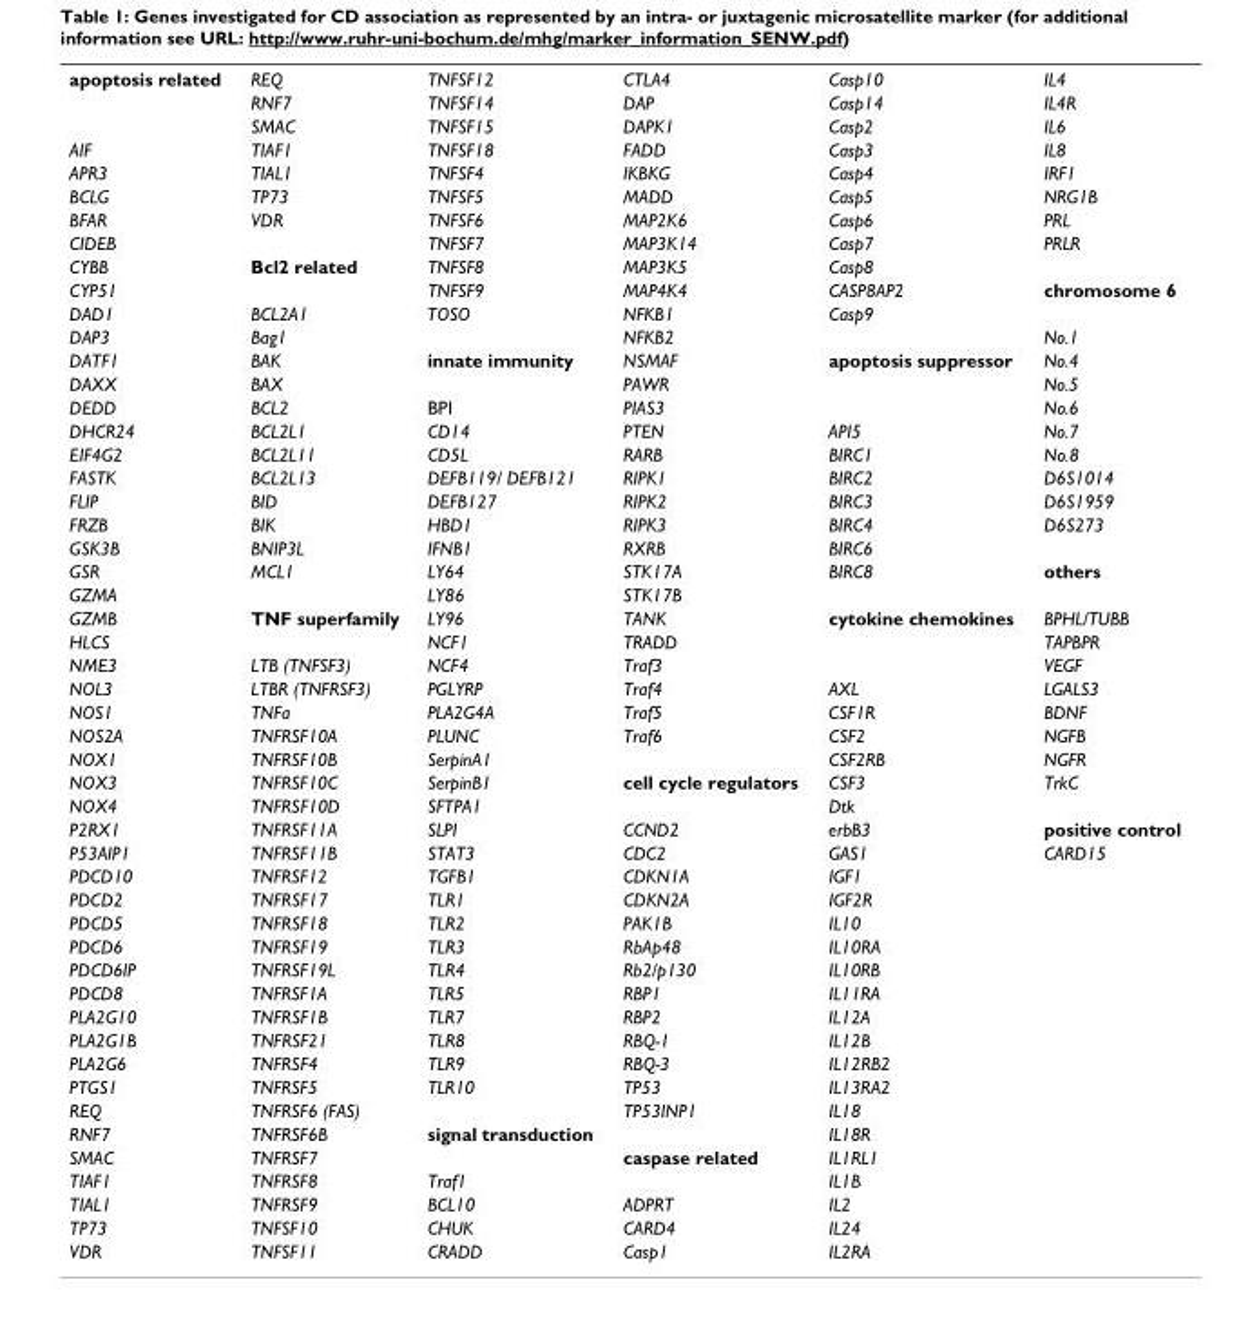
<table><tbody><tr><td rowspan="3">apoptosis related</td><td>REQ</td><td>TNFSF12</td><td>CTLA4</td><td>Casp10</td><td>IL4</td></tr><tr><td>RNF7</td><td>TNFSF14</td><td>DAP</td><td>Casp14</td><td>IL4R</td></tr><tr><td>SMAC</td><td>TNFSF15</td><td>DAPK1</td><td>Casp2</td><td>IL6</td></tr><tr><td>AIF</td><td>TIAF1</td><td>TNFSF18</td><td>FADD</td><td>Casp3</td><td>IL8</td></tr><tr><td>APR3</td><td>TIAL1</td><td>TNFSF4</td><td>IKBKG</td><td>Casp4</td><td>IRF1</td></tr><tr><td>BCLG</td><td>TP73</td><td>TNFSF5</td><td>MADD</td><td>Casp5</td><td>NRG1B</td></tr><tr><td>BFAR</td><td>VDR</td><td>TNFSF6</td><td>MAP2K6</td><td>Casp6</td><td>PRL</td></tr><tr><td>CIDEB</td><td></td><td>TNFSF7</td><td>MAP3K14</td><td>Casp7</td><td>PRLR</td></tr><tr><td>CYBB</td><td>Bcl2 related</td><td>TNFSF8</td><td>MAP3K5</td><td>Casp8</td><td></td></tr><tr><td>CYP51</td><td></td><td>TNFSF9</td><td>MAP4K4</td><td>CASP8AP2</td><td>chromosome 6</td></tr><tr><td>DAD1</td><td>BCL2A1</td><td>TOSO</td><td>NFKB1</td><td>Casp9</td><td></td></tr><tr><td>DAP3</td><td>Bag1</td><td></td><td>NFKB2</td><td></td><td>No.1</td></tr><tr><td>DATF1</td><td>BAK</td><td>innate immunity</td><td>NSMAF</td><td>apoptosis suppressor</td><td>No.4</td></tr><tr><td>DAXX</td><td>BAX</td><td></td><td>PAWR</td><td></td><td>No.5</td></tr><tr><td>DEDD</td><td>BCL2</td><td>BPI</td><td>PIAS3</td><td></td><td>No.6</td></tr><tr><td>DHCR24</td><td>BCL2L1</td><td>CD14</td><td>PTEN</td><td>API5</td><td>No.7</td></tr><tr><td>EIF4G2</td><td>BCL2L11</td><td>CD5L</td><td>RARB</td><td>BIRC1</td><td>No.8</td></tr><tr><td>FASTK</td><td>BCL2L13</td><td>DEFB119/ DEFB121</td><td>RIPK1</td><td>BIRC2</td><td>D6S1014</td></tr><tr><td>FLIP</td><td>BID</td><td>DEFB127</td><td>RIPK2</td><td>BIRC3</td><td>D6S1959</td></tr><tr><td>FRZB</td><td>BIK</td><td>HBD1</td><td>RIPK3</td><td>BIRC4</td><td>D6S273</td></tr><tr><td>GSK3B</td><td>BNIP3L</td><td>IFNB1</td><td>RXRB</td><td>BIRC6</td><td></td></tr><tr><td>GSR</td><td>MCL1</td><td>LY64</td><td>STK17A</td><td>BIRC8</td><td>others</td></tr><tr><td>GZMA</td><td></td><td>LY86</td><td>STK17B</td><td></td><td></td></tr><tr><td>GZMB</td><td>TNF superfamily</td><td>LY96</td><td>TANK</td><td>cytokine chemokines</td><td>BPHL/TUBB</td></tr><tr><td>HLCS</td><td></td><td>NCF1</td><td>TRADD</td><td></td><td>TAPBPR</td></tr><tr><td>NME3</td><td>LTB (TNFSF3)</td><td>NCF4</td><td>Traf3</td><td></td><td>VEGF</td></tr><tr><td>NOL3</td><td>LTBR (TNFRSF3)</td><td>PGLYRP</td><td>Traf4</td><td>AXL</td><td>LGALS3</td></tr><tr><td>NOS1</td><td>TNFa</td><td>PLA2G4A</td><td>Traf5</td><td>CSF1R</td><td>BDNF</td></tr><tr><td>NOS2A</td><td>TNFRSF10A</td><td>PLUNC</td><td>Traf6</td><td>CSF2</td><td>NGFB</td></tr><tr><td>NOX1</td><td>TNFRSF10B</td><td>SerpinA1</td><td></td><td>CSF2RB</td><td>NGFR</td></tr><tr><td>NOX3</td><td>TNFRSF10C</td><td>SerpinB1</td><td>cell cycle regulators</td><td>CSF3</td><td>TrkC</td></tr><tr><td>NOX4</td><td>TNFRSF10D</td><td>SFTPA1</td><td></td><td>Dtk</td><td></td></tr><tr><td>P2RX1</td><td>TNFRSF11A</td><td>SLPI</td><td>CCND2</td><td>erbB3</td><td>positive control</td></tr><tr><td>P53AIP1</td><td>TNFRSF11B</td><td>STAT3</td><td>CDC2</td><td>GAS1</td><td>CARD15</td></tr><tr><td>PDCD10</td><td>TNFRSF12</td><td>TGFB1</td><td>CDKN1A</td><td>IGF1</td><td></td></tr><tr><td>PDCD2</td><td>TNFRSF17</td><td>TLR1</td><td>CDKN2A</td><td>IGF2R</td><td></td></tr><tr><td>PDCD5</td><td>TNFRSF18</td><td>TLR2</td><td>PAK1B</td><td>IL10</td><td></td></tr><tr><td>PDCD6</td><td>TNFRSF19</td><td>TLR3</td><td>RbAp48</td><td>IL10RA</td><td></td></tr><tr><td>PDCD6IP</td><td>TNFRSF19L</td><td>TLR4</td><td>Rb2/p130</td><td>IL10RB</td><td></td></tr><tr><td>PDCD8</td><td>TNFRSF1A</td><td>TLR5</td><td>RBP1</td><td>IL11RA</td><td></td></tr><tr><td>PLA2G10</td><td>TNFRSF1B</td><td>TLR7</td><td>RBP2</td><td>IL12A</td><td></td></tr><tr><td>PLA2G1B</td><td>TNFRSF21</td><td>TLR8</td><td>RBQ-1</td><td>IL12B</td><td></td></tr><tr><td>PLA2G6</td><td>TNFRSF4</td><td>TLR9</td><td>RBQ-3</td><td>IL12RB2</td><td></td></tr><tr><td>PTGS1</td><td>TNFRSF5</td><td>TLR10</td><td>TP53</td><td>IL13RA2</td><td></td></tr><tr><td>REQ</td><td>TNFRSF6 (FAS)</td><td></td><td>TP53INP1</td><td>IL18</td><td></td></tr><tr><td>RNF7</td><td>TNFRSF6B</td><td>signal transduction</td><td></td><td>IL18R</td><td></td></tr><tr><td>SMAC</td><td>TNFRSF7</td><td></td><td>caspase related</td><td>IL1RL1</td><td></td></tr><tr><td>TIAF1</td><td>TNFRSF8</td><td>Traf1</td><td></td><td>IL1B</td><td></td></tr><tr><td>TIAL1</td><td>TNFRSF9</td><td>BCL10</td><td>ADPRT</td><td>IL2</td><td></td></tr><tr><td>TP73</td><td>TNFSF10</td><td>CHUK</td><td>CARD4</td><td>IL24</td><td></td></tr><tr><td>VDR</td><td>TNFSF11</td><td>CRADD</td><td>Casp1</td><td>IL2RA</td><td></td></tr></tbody></table>